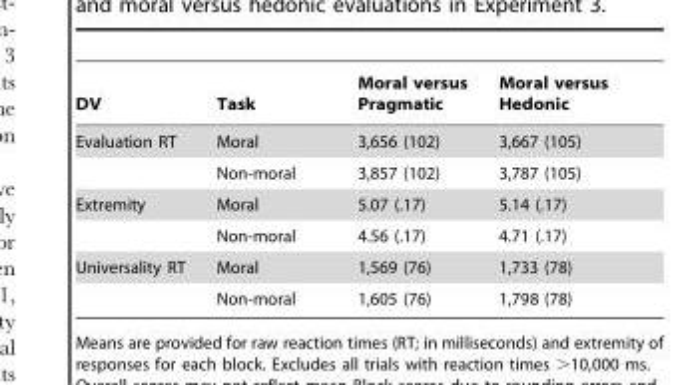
<table><thead><tr><td>DV</td><td>Task</td><td>Moral versus Pragmatic</td><td>Moral versus Hedonic</td></tr></thead><tbody><tr><td rowspan="2">Evaluation RT</td><td>Moral</td><td>3,656 (102)</td><td>3,667 (105)</td></tr><tr><td>Non-moral</td><td>3,857 (102)</td><td>3,787 (105)</td></tr><tr><td rowspan="2">Extremity</td><td>Moral</td><td>5.07 (.17)</td><td>5.14 (.17)</td></tr><tr><td>Non-moral</td><td>4.56 (.17)</td><td>4.71 (.17)</td></tr><tr><td rowspan="2">Universality RT</td><td>Moral</td><td>1,569 (76)</td><td>1,733 (78)</td></tr><tr><td>Non-moral</td><td>1,605 (76)</td><td>1,798 (78)</td></tr></tbody></table>